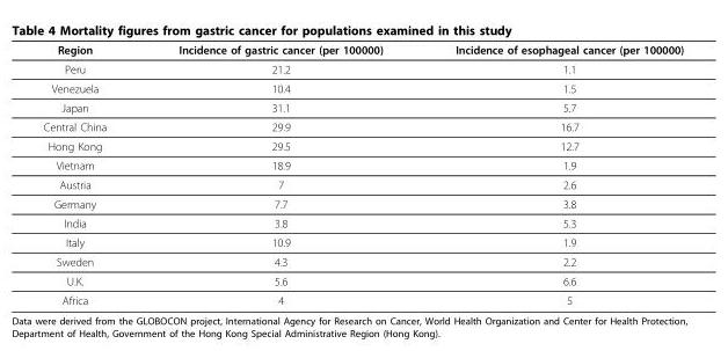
<table><thead><tr><td>Region</td><td>Incidence of gastric cancer (per 100000)</td><td>Incidence of esophageal cancer (per 100000)</td></tr></thead><tbody><tr><td>Peru</td><td>21.2</td><td>1.1</td></tr><tr><td>Venezuela</td><td>10.4</td><td>1.5</td></tr><tr><td>Japan</td><td>31.1</td><td>5.7</td></tr><tr><td>Central China</td><td>29.9</td><td>16.7</td></tr><tr><td>Hong Kong</td><td>29.5</td><td>12.7</td></tr><tr><td>Vietnam</td><td>18.9</td><td>1.9</td></tr><tr><td>Austria</td><td>7</td><td>2.6</td></tr><tr><td>Germany</td><td>7.7</td><td>3.8</td></tr><tr><td>India</td><td>3.8</td><td>5.3</td></tr><tr><td>Italy</td><td>10.9</td><td>1.9</td></tr><tr><td>Sweden</td><td>4.3</td><td>2.2</td></tr><tr><td>U.K.</td><td>5.6</td><td>6.6</td></tr><tr><td>Africa</td><td>4</td><td>5</td></tr></tbody></table>